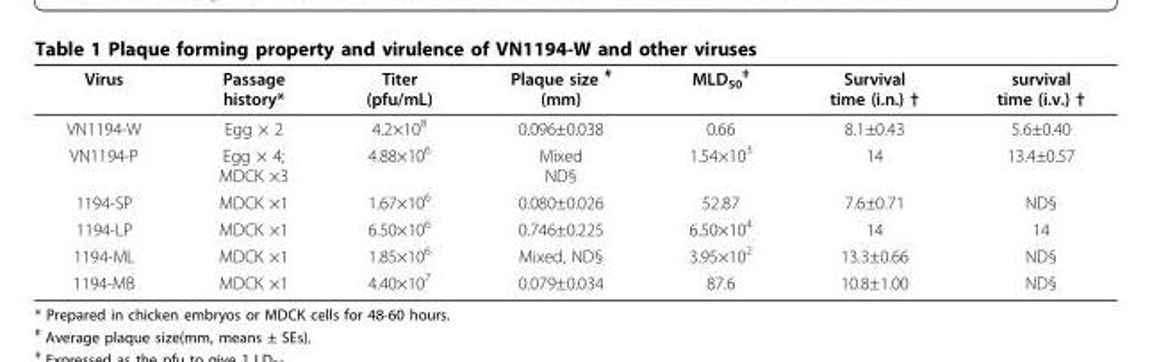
<table><thead><tr><td>Virus</td><td>Passage history*</td><td>Titer (pfu/mL)</td><td>Plaque size <sup>#</sup> (mm)</td><td>MLD<sub>50</sub> <sup>‡</sup></td><td>Survival time (i.n.) †</td><td>survival time (i.v.) †</td></tr></thead><tbody><tr><td>VN1194-W</td><td>Egg × 2</td><td>4.2×10<sup>8</sup></td><td>0.096±0.038</td><td>0.66</td><td>8.1±0.43</td><td>5.6±0.40</td></tr><tr><td>VN1194-P</td><td>Egg × 4; MDCK ×3</td><td>4.88×10<sup>6</sup></td><td>Mixed ND§</td><td>1.54×10<sup>3</sup></td><td>14</td><td>13.4±0.57</td></tr><tr><td>1194-SP</td><td>MDCK ×1</td><td>1.67×10<sup>6</sup></td><td>0.080±0.026</td><td>52.87</td><td>7.6±0.71</td><td>ND§</td></tr><tr><td>1194-LP</td><td>MDCK ×1</td><td>6.50×10<sup>6</sup></td><td>0.746±0.225</td><td>6.50×10<sup>4</sup></td><td>14</td><td>14</td></tr><tr><td>1194-ML</td><td>MDCK ×1</td><td>1.85×10<sup>6</sup></td><td>Mixed, ND§</td><td>3.95×10<sup>2</sup></td><td>13.3±0.66</td><td>ND§</td></tr><tr><td>1194-MB</td><td>MDCK ×1</td><td>4.40×10<sup>7</sup></td><td>0.079±0.034</td><td>87.6</td><td>10.8±1.00</td><td>ND§</td></tr></tbody></table>